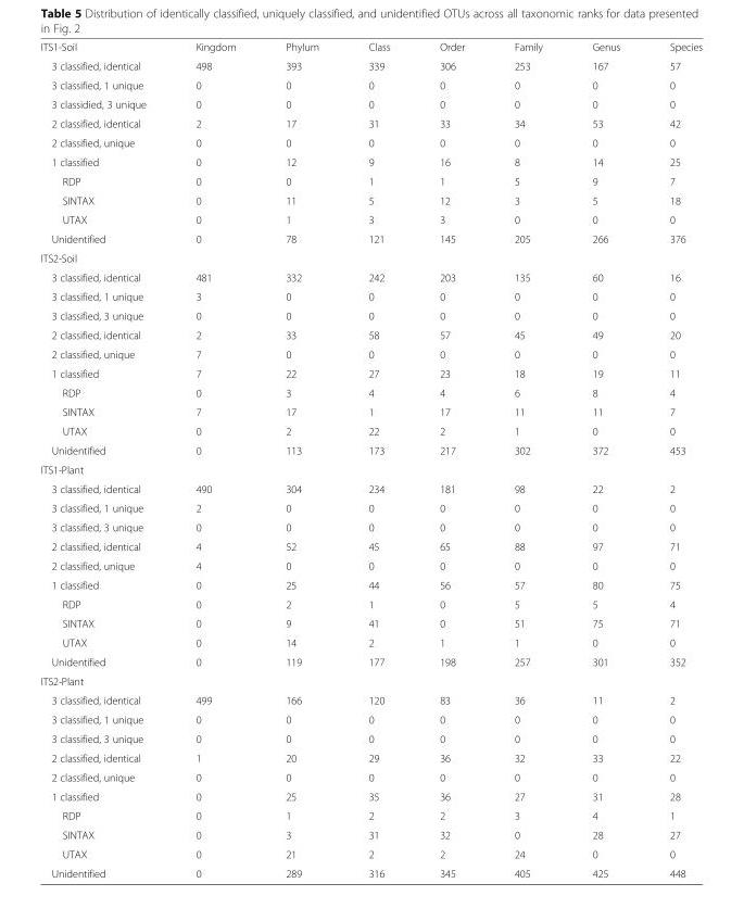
<table><tbody><tr><td>ITS1-Soil</td><td>Kingdom</td><td>Phylum</td><td>Class</td><td>Order</td><td>Family</td><td>Genus</td><td>Species</td></tr><tr><td>3 classified, identical</td><td>498</td><td>393</td><td>339</td><td>306</td><td>253</td><td>167</td><td>57</td></tr><tr><td>3 classified, 1 unique</td><td>0</td><td>0</td><td>0</td><td>0</td><td>0</td><td>0</td><td>0</td></tr><tr><td>3 classidied, 3 unique</td><td>0</td><td>0</td><td>0</td><td>0</td><td>0</td><td>0</td><td>0</td></tr><tr><td>2 classified, identical</td><td>2</td><td>17</td><td>31</td><td>33</td><td>34</td><td>53</td><td>42</td></tr><tr><td>2 classified, unique</td><td>0</td><td>0</td><td>0</td><td>0</td><td>0</td><td>0</td><td>0</td></tr><tr><td>1 classified</td><td>0</td><td>12</td><td>9</td><td>16</td><td>8</td><td>14</td><td>25</td></tr><tr><td>RDP</td><td>0</td><td>0</td><td>1</td><td>1</td><td>5</td><td>9</td><td>7</td></tr><tr><td>SINTAX</td><td>0</td><td>11</td><td>5</td><td>12</td><td>3</td><td>5</td><td>18</td></tr><tr><td>UTAX</td><td>0</td><td>1</td><td>3</td><td>3</td><td>0</td><td>0</td><td>0</td></tr><tr><td>Unidentified</td><td>0</td><td>78</td><td>121</td><td>145</td><td>205</td><td>266</td><td>376</td></tr><tr><td colspan="8">ITS2-Soil</td></tr><tr><td>3 classified, identical</td><td>481</td><td>332</td><td>242</td><td>203</td><td>135</td><td>60</td><td>16</td></tr><tr><td>3 classified, 1 unique</td><td>3</td><td>0</td><td>0</td><td>0</td><td>0</td><td>0</td><td>0</td></tr><tr><td>3 classified, 3 unique</td><td>0</td><td>0</td><td>0</td><td>0</td><td>0</td><td>0</td><td>0</td></tr><tr><td>2 classified, identical</td><td>2</td><td>33</td><td>58</td><td>57</td><td>45</td><td>49</td><td>20</td></tr><tr><td>2 classified, unique</td><td>7</td><td>0</td><td>0</td><td>0</td><td>0</td><td>0</td><td>0</td></tr><tr><td>1 classified</td><td>7</td><td>22</td><td>27</td><td>23</td><td>18</td><td>19</td><td>11</td></tr><tr><td>RDP</td><td>0</td><td>3</td><td>4</td><td>4</td><td>6</td><td>8</td><td>4</td></tr><tr><td>SINTAX</td><td>7</td><td>17</td><td>1</td><td>17</td><td>11</td><td>11</td><td>7</td></tr><tr><td>UTAX</td><td>0</td><td>2</td><td>22</td><td>2</td><td>1</td><td>0</td><td>0</td></tr><tr><td>Unidentified</td><td>0</td><td>113</td><td>173</td><td>217</td><td>302</td><td>372</td><td>453</td></tr><tr><td colspan="8">ITS1-Plant</td></tr><tr><td>3 classified, identical</td><td>490</td><td>304</td><td>234</td><td>181</td><td>98</td><td>22</td><td>2</td></tr><tr><td>3 classified, 1 unique</td><td>2</td><td>0</td><td>0</td><td>0</td><td>0</td><td>0</td><td>0</td></tr><tr><td>3 classified, 3 unique</td><td>0</td><td>0</td><td>0</td><td>0</td><td>0</td><td>0</td><td>0</td></tr><tr><td>2 classified, identical</td><td>4</td><td>52</td><td>45</td><td>65</td><td>88</td><td>97</td><td>71</td></tr><tr><td>2 classified, unique</td><td>4</td><td>0</td><td>0</td><td>0</td><td>0</td><td>0</td><td>0</td></tr><tr><td>1 classified</td><td>0</td><td>25</td><td>44</td><td>56</td><td>57</td><td>80</td><td>75</td></tr><tr><td>RDP</td><td>0</td><td>2</td><td>1</td><td>0</td><td>5</td><td>5</td><td>4</td></tr><tr><td>SINTAX</td><td>0</td><td>9</td><td>41</td><td>0</td><td>51</td><td>75</td><td>71</td></tr><tr><td>UTAX</td><td>0</td><td>14</td><td>2</td><td>1</td><td>1</td><td>0</td><td>0</td></tr><tr><td>Unidentified</td><td>0</td><td>119</td><td>177</td><td>198</td><td>257</td><td>301</td><td>352</td></tr><tr><td colspan="8">ITS2-Plant</td></tr><tr><td>3 classified, identical</td><td>499</td><td>166</td><td>120</td><td>83</td><td>36</td><td>11</td><td>2</td></tr><tr><td>3 classified, 1 unique</td><td>0</td><td>0</td><td>0</td><td>0</td><td>0</td><td>0</td><td>0</td></tr><tr><td>3 classified, 3 unique</td><td>0</td><td>0</td><td>0</td><td>0</td><td>0</td><td>0</td><td>0</td></tr><tr><td>2 classified, identical</td><td>1</td><td>20</td><td>29</td><td>36</td><td>32</td><td>33</td><td>22</td></tr><tr><td>2 classified, unique</td><td>0</td><td>0</td><td>0</td><td>0</td><td>0</td><td>0</td><td>0</td></tr><tr><td>1 classified</td><td>0</td><td>25</td><td>35</td><td>36</td><td>27</td><td>31</td><td>28</td></tr><tr><td>RDP</td><td>0</td><td>1</td><td>2</td><td>2</td><td>3</td><td>4</td><td>1</td></tr><tr><td>SINTAX</td><td>0</td><td>3</td><td>31</td><td>32</td><td>0</td><td>28</td><td>27</td></tr><tr><td>UTAX</td><td>0</td><td>21</td><td>2</td><td>2</td><td>24</td><td>0</td><td>0</td></tr><tr><td>Unidentified</td><td>0</td><td>289</td><td>316</td><td>345</td><td>405</td><td>425</td><td>448</td></tr></tbody></table>